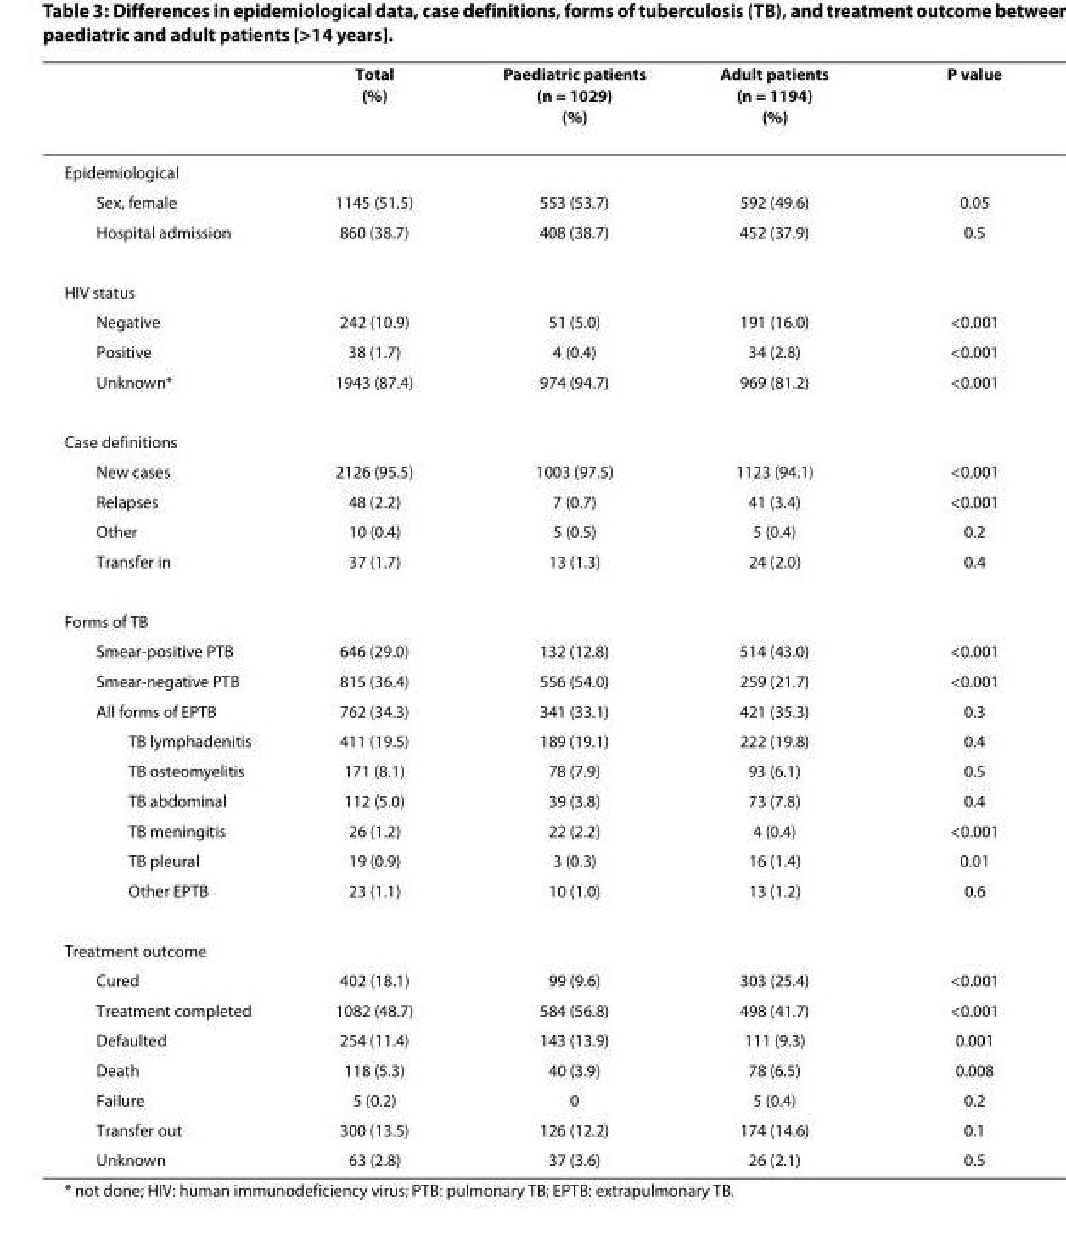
<table><thead><tr><td></td><td>Total (%)</td><td>Paediatric patients (n = 1029) (%)</td><td>Adult patients (n = 1194) (%)</td><td>P value</td></tr></thead><tbody><tr><td colspan="5">Epidemiological</td></tr><tr><td>Sex, female</td><td>1145 (51.5)</td><td>553 (53.7)</td><td>592 (49.6)</td><td>0.05</td></tr><tr><td>Hospital admission</td><td>860 (38.7)</td><td>408 (38.7)</td><td>452 (37.9)</td><td>0.5</td></tr><tr><td colspan="5">HIV status</td></tr><tr><td>Negative</td><td>242 (10.9)</td><td>51 (5.0)</td><td>191 (16.0)</td><td>&lt;0.001</td></tr><tr><td>Positive</td><td>38 (1.7)</td><td>4 (0.4)</td><td>34 (2.8)</td><td>&lt;0.001</td></tr><tr><td>Unknown*</td><td>1943 (87.4)</td><td>974 (94.7)</td><td>969 (81.2)</td><td>&lt;0.001</td></tr><tr><td colspan="5">Case definitions</td></tr><tr><td>New cases</td><td>2126 (95.5)</td><td>1003 (97.5)</td><td>1123 (94.1)</td><td>&lt;0.001</td></tr><tr><td>Relapses</td><td>48 (2.2)</td><td>7 (0.7)</td><td>41 (3.4)</td><td>&lt;0.001</td></tr><tr><td>Other</td><td>10 (0.4)</td><td>5 (0.5)</td><td>5 (0.4)</td><td>0.2</td></tr><tr><td>Transfer in</td><td>37 (1.7)</td><td>13 (1.3)</td><td>24 (2.0)</td><td>0.4</td></tr><tr><td colspan="5">Forms of TB</td></tr><tr><td>Smear-positive PTB</td><td>646 (29.0)</td><td>132 (12.8)</td><td>514 (43.0)</td><td>&lt;0.001</td></tr><tr><td>Smear-negative PTB</td><td>815 (36.4)</td><td>556 (54.0)</td><td>259 (21.7)</td><td>&lt;0.001</td></tr><tr><td>All forms of EPTB</td><td>762 (34.3)</td><td>341 (33.1)</td><td>421 (35.3)</td><td>0.3</td></tr><tr><td>TB lymphadenitis</td><td>411 (19.5)</td><td>189 (19.1)</td><td>222 (19.8)</td><td>0.4</td></tr><tr><td>TB osteomyelitis</td><td>171 (8.1)</td><td>78 (7.9)</td><td>93 (6.1)</td><td>0.5</td></tr><tr><td>TB abdominal</td><td>112 (5.0)</td><td>39 (3.8)</td><td>73 (7.8)</td><td>0.4</td></tr><tr><td>TB meningitis</td><td>26 (1.2)</td><td>22 (2.2)</td><td>4 (0.4)</td><td>&lt;0.001</td></tr><tr><td>TB pleural</td><td>19 (0.9)</td><td>3 (0.3)</td><td>16 (1.4)</td><td>0.01</td></tr><tr><td>Other EPTB</td><td>23 (1.1)</td><td>10 (1.0)</td><td>13 (1.2)</td><td>0.6</td></tr><tr><td colspan="5">Treatment outcome</td></tr><tr><td>Cured</td><td>402 (18.1)</td><td>99 (9.6)</td><td>303 (25.4)</td><td>&lt;0.001</td></tr><tr><td>Treatment completed</td><td>1082 (48.7)</td><td>584 (56.8)</td><td>498 (41.7)</td><td>&lt;0.001</td></tr><tr><td>Defaulted</td><td>254 (11.4)</td><td>143 (13.9)</td><td>111 (9.3)</td><td>0.001</td></tr><tr><td>Death</td><td>118 (5.3)</td><td>40 (3.9)</td><td>78 (6.5)</td><td>0.008</td></tr><tr><td>Failure</td><td>5 (0.2)</td><td>0</td><td>5 (0.4)</td><td>0.2</td></tr><tr><td>Transfer out</td><td>300 (13.5)</td><td>126 (12.2)</td><td>174 (14.6)</td><td>0.1</td></tr><tr><td>Unknown</td><td>63 (2.8)</td><td>37 (3.6)</td><td>26 (2.1)</td><td>0.5</td></tr></tbody></table>